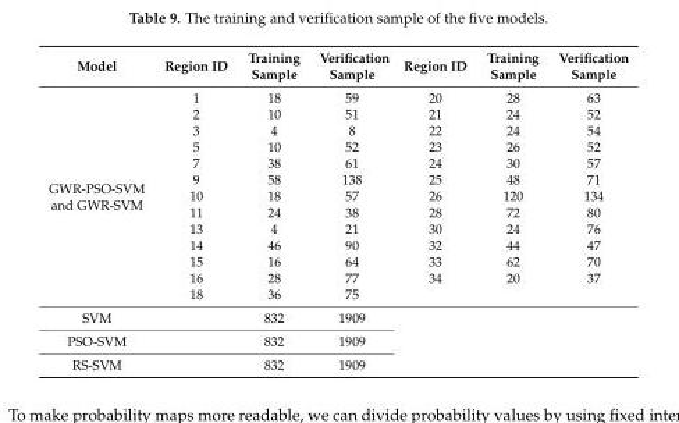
<table><thead><tr><td>Model</td><td>Region ID</td><td>Training Sample</td><td>Verification Sample</td><td>Region ID</td><td>Training Sample</td><td>Verification Sample</td></tr></thead><tbody><tr><td rowspan="13">GWR-PSO-SVM and GWR-SVM</td><td>1</td><td>18</td><td>59</td><td>20</td><td>28</td><td>63</td></tr><tr><td>2</td><td>10</td><td>51</td><td>21</td><td>24</td><td>52</td></tr><tr><td>3</td><td>4</td><td>8</td><td>22</td><td>24</td><td>54</td></tr><tr><td>5</td><td>10</td><td>52</td><td>23</td><td>26</td><td>52</td></tr><tr><td>7</td><td>38</td><td>61</td><td>24</td><td>30</td><td>57</td></tr><tr><td>9</td><td>58</td><td>138</td><td>25</td><td>48</td><td>71</td></tr><tr><td>10</td><td>18</td><td>57</td><td>26</td><td>120</td><td>134</td></tr><tr><td>11</td><td>24</td><td>38</td><td>28</td><td>72</td><td>80</td></tr><tr><td>13</td><td>4</td><td>21</td><td>30</td><td>24</td><td>76</td></tr><tr><td>14</td><td>46</td><td>90</td><td>32</td><td>44</td><td>47</td></tr><tr><td>15</td><td>16</td><td>64</td><td>33</td><td>62</td><td>70</td></tr><tr><td>16</td><td>28</td><td>77</td><td>34</td><td>20</td><td>37</td></tr><tr><td>18</td><td>36</td><td>75</td><td colspan="3"></td></tr><tr><td>SVM</td><td></td><td>832</td><td>1909</td><td rowspan="3" colspan="3"></td></tr><tr><td>PSO-SVM</td><td></td><td>832</td><td>1909</td></tr><tr><td>RS-SVM</td><td></td><td>832</td><td>1909</td></tr></tbody></table>